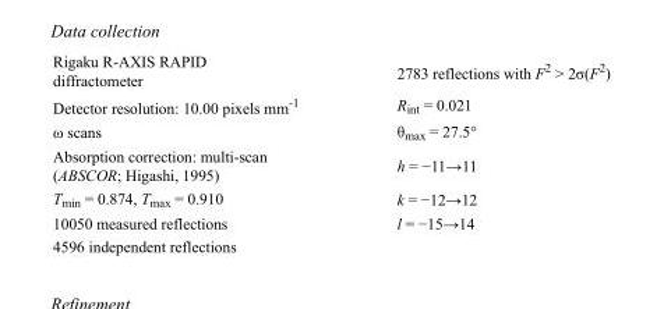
<table><tbody><tr><td>Rigaku R-AXIS RAPID diffractometer</td><td>2783 reflections with F<sup>2</sup> &gt; 2σ(F<sup>2</sup>)</td></tr><tr><td>Detector resolution: 10.00 pixels mm<sup>-1</sup></td><td>R<sub>int</sub> = 0.021</td></tr><tr><td>ω scans</td><td>θ<sub>max</sub> = 27.5°</td></tr><tr><td>Absorption correction: multi-scan (ABSCOR; Higashi, 1995)</td><td>h = −11→11</td></tr><tr><td>T<sub>min</sub> = 0.874, T<sub>max</sub> = 0.910</td><td>k = −12→12</td></tr><tr><td>10050 measured reflections</td><td>l = −15→14</td></tr><tr><td>4596 independent reflections</td><td></td></tr></tbody></table>